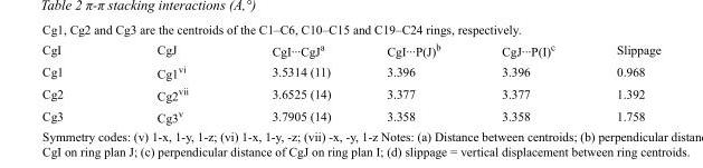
<table><tbody><tr><td>CgI</td><td>CgJ</td><td>CgI···CgJ<sup>a</sup></td><td>CgI···P(J)<sup>b</sup></td><td>CgJ···P(I)<sup>c</sup></td><td>Slippage</td></tr><tr><td>Cg1</td><td>Cg1<sup>vi</sup></td><td>3.5314 (11)</td><td>3.396</td><td>3.396</td><td>0.968</td></tr><tr><td>Cg2</td><td>Cg2<sup>vii</sup></td><td>3.6525 (14)</td><td>3.377</td><td>3.377</td><td>1.392</td></tr><tr><td>Cg3</td><td>Cg3<sup>v</sup></td><td>3.7905 (14)</td><td>3.358</td><td>3.358</td><td>1.758</td></tr></tbody></table>